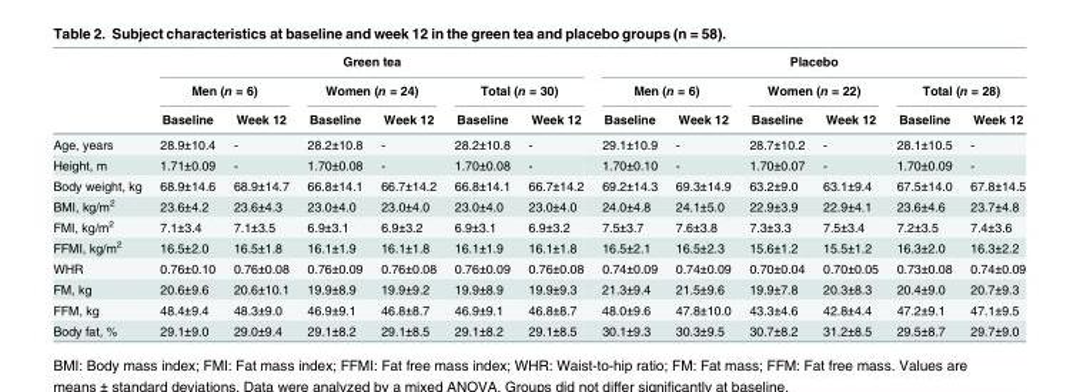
<table><thead><tr><td rowspan="3"></td><td colspan="6">Green tea</td><td colspan="6">Placebo</td></tr><tr><td colspan="2">Men (n = 6)</td><td colspan="2">Women (n = 24)</td><td colspan="2">Total (n = 30)</td><td colspan="2">Men (n = 6)</td><td colspan="2">Women (n = 22)</td><td colspan="2">Total (n = 28)</td></tr><tr><td>Baseline</td><td>Week 12</td><td>Baseline</td><td>Week 12</td><td>Baseline</td><td>Week 12</td><td>Baseline</td><td>Week 12</td><td>Baseline</td><td>Week 12</td><td>Baseline</td><td>Week 12</td></tr></thead><tbody><tr><td>Age, years</td><td>28.9±10.4</td><td>-</td><td>28.2±10.8</td><td>-</td><td>28.2±10.8</td><td>-</td><td>29.1±10.9</td><td>-</td><td>28.7±10.2</td><td>-</td><td>28.1±10.5</td><td>-</td></tr><tr><td>Height, m</td><td>1.71±0.09</td><td>-</td><td>1.70±0.08</td><td>-</td><td>1.70±0.08</td><td>-</td><td>1.70±0.10</td><td>-</td><td>1.70±0.07</td><td>-</td><td>1.70±0.09</td><td>-</td></tr><tr><td>Body weight, kg</td><td>68.9±14.6</td><td>68.9±14.7</td><td>66.8±14.1</td><td>66.7±14.2</td><td>66.8±14.1</td><td>66.7±14.2</td><td>69.2±14.3</td><td>69.3±14.9</td><td>63.2±9.0</td><td>63.1±9.4</td><td>67.5±14.0</td><td>67.8±14.5</td></tr><tr><td>BMI, kg/m<sup>2</sup></td><td>23.6±4.2</td><td>23.6±4.3</td><td>23.0±4.0</td><td>23.0±4.0</td><td>23.0±4.0</td><td>23.0±4.0</td><td>24.0±4.8</td><td>24.1±5.0</td><td>22.9±3.9</td><td>22.9±4.1</td><td>23.6±4.6</td><td>23.7±4.8</td></tr><tr><td>FMI, kg/m<sup>2</sup></td><td>7.1±3.4</td><td>7.1±3.5</td><td>6.9±3.1</td><td>6.9±3.2</td><td>6.9±3.1</td><td>6.9±3.2</td><td>7.5±3.7</td><td>7.6±3.8</td><td>7.3±3.3</td><td>7.5±3.4</td><td>7.2±3.5</td><td>7.4±3.6</td></tr><tr><td>FFMI, kg/m<sup>2</sup></td><td>16.5±2.0</td><td>16.5±1.8</td><td>16.1±1.9</td><td>16.1±1.8</td><td>16.1±1.9</td><td>16.1±1.8</td><td>16.5±2.1</td><td>16.5±2.3</td><td>15.6±1.2</td><td>15.5±1.2</td><td>16.3±2.0</td><td>16.3±2.2</td></tr><tr><td>WHR</td><td>0.76±0.10</td><td>0.76±0.08</td><td>0.76±0.09</td><td>0.76±0.08</td><td>0.76±0.09</td><td>0.76±0.08</td><td>0.74±0.09</td><td>0.74±0.09</td><td>0.70±0.04</td><td>0.70±0.05</td><td>0.73±0.08</td><td>0.74±0.09</td></tr><tr><td>FM, kg</td><td>20.6±9.6</td><td>20.6±10.1</td><td>19.9±8.9</td><td>19.9±9.2</td><td>19.9±8.9</td><td>19.9±9.3</td><td>21.3±9.4</td><td>21.5±9.6</td><td>19.9±7.8</td><td>20.3±8.3</td><td>20.4±9.0</td><td>20.7±9.3</td></tr><tr><td>FFM, kg</td><td>48.4±9.4</td><td>48.3±9.0</td><td>46.9±9.1</td><td>46.8±8.7</td><td>46.9±9.1</td><td>46.8±8.7</td><td>48.0±9.6</td><td>47.8±10.0</td><td>43.3±4.6</td><td>42.8±4.4</td><td>47.2±9.1</td><td>47.1±9.5</td></tr><tr><td>Body fat, %</td><td>29.1±9.0</td><td>29.0±9.4</td><td>29.1±8.2</td><td>29.1±8.5</td><td>29.1±8.2</td><td>29.1±8.5</td><td>30.1±9.3</td><td>30.3±9.5</td><td>30.7±8.2</td><td>31.2±8.5</td><td>29.5±8.7</td><td>29.7±9.0</td></tr></tbody></table>